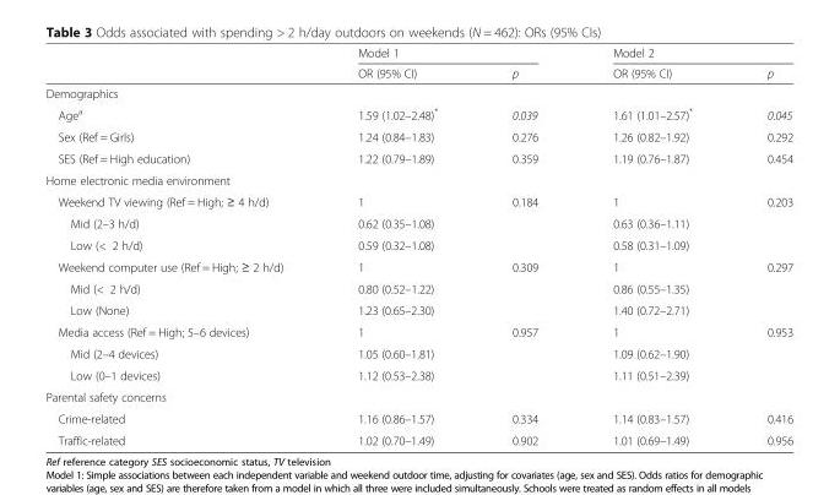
<table><thead><tr><td rowspan="2"></td><td colspan="2">Model 1</td><td colspan="2">Model 2</td></tr><tr><td>OR (95% CI)</td><td>p</td><td>OR (95% CI)</td><td>p</td></tr></thead><tbody><tr><td colspan="5">Demographics</td></tr><tr><td>Age<sup>a</sup></td><td>1.59 (1.02–2.48)*</td><td>0.039</td><td>1.61 (1.01–2.57)*</td><td>0.045</td></tr><tr><td>Sex (Ref = Girls)</td><td>1.24 (0.84–1.83)</td><td>0.276</td><td>1.26 (0.82–1.92)</td><td>0.292</td></tr><tr><td>SES (Ref = High education)</td><td>1.22 (0.79–1.89)</td><td>0.359</td><td>1.19 (0.76–1.87)</td><td>0.454</td></tr><tr><td colspan="5">Home electronic media environment</td></tr><tr><td>Weekend TV viewing (Ref = High; ≥ 4 h/d)</td><td>1</td><td>0.184</td><td>1</td><td>0.203</td></tr><tr><td>Mid (2–3 h/d)</td><td>0.62 (0.35–1.08)</td><td></td><td>0.63 (0.36–1.11)</td><td></td></tr><tr><td>Low (&lt; 2 h/d)</td><td>0.59 (0.32–1.08)</td><td></td><td>0.58 (0.31–1.09)</td><td></td></tr><tr><td>Weekend computer use (Ref = High; ≥ 2 h/d)</td><td>1</td><td>0.309</td><td>1</td><td>0.297</td></tr><tr><td>Mid (&lt; 2 h/d)</td><td>0.80 (0.52–1.22)</td><td></td><td>0.86 (0.55–1.35)</td><td></td></tr><tr><td>Low (None)</td><td>1.23 (0.65–2.30)</td><td></td><td>1.40 (0.72–2.71)</td><td></td></tr><tr><td>Media access (Ref = High; 5–6 devices)</td><td>1</td><td>0.957</td><td>1</td><td>0.953</td></tr><tr><td>Mid (2–4 devices)</td><td>1.05 (0.60–1.81)</td><td></td><td>1.09 (0.62–1.90)</td><td></td></tr><tr><td>Low (0–1 devices)</td><td>1.12 (0.53–2.38)</td><td></td><td>1.11 (0.51–2.39)</td><td></td></tr><tr><td colspan="5">Parental safety concerns</td></tr><tr><td>Crime-related</td><td>1.16 (0.86–1.57)</td><td>0.334</td><td>1.14 (0.83–1.57)</td><td>0.416</td></tr><tr><td>Traffic-related</td><td>1.02 (0.70–1.49)</td><td>0.902</td><td>1.01 (0.69–1.49)</td><td>0.956</td></tr></tbody></table>